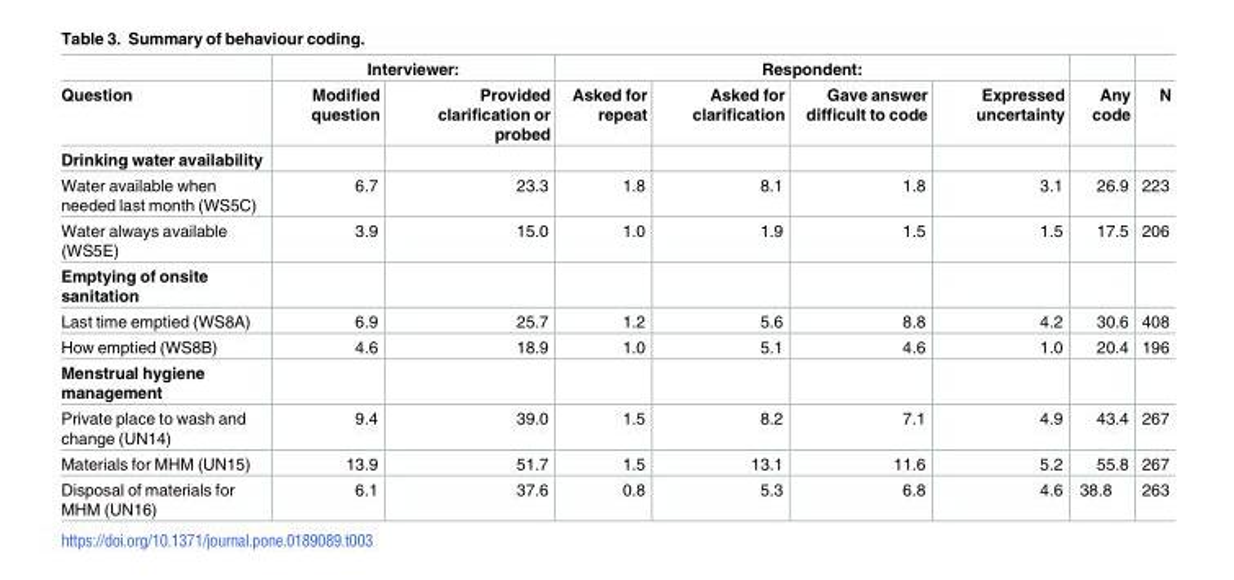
<table><thead><tr><td rowspan="2">Question</td><td colspan="2">Interviewer:</td><td colspan="4">Respondent:</td><td rowspan="2">Any code</td><td rowspan="2">N</td></tr><tr><td>Modified question</td><td>Provided clarification or probed</td><td>Asked for repeat</td><td>Asked for clarification</td><td>Gave answer difficult to code</td><td>Expressed uncertainty</td></tr></thead><tbody><tr><td colspan="9">Drinking water availability</td></tr><tr><td>Water available when needed last month (WS5C)</td><td>6.7</td><td>23.3</td><td>1.8</td><td>8.1</td><td>1.8</td><td>3.1</td><td>26.9</td><td>223</td></tr><tr><td>Water always available (WS5E)</td><td>3.9</td><td>15.0</td><td>1.0</td><td>1.9</td><td>1.5</td><td>1.5</td><td>17.5</td><td>206</td></tr><tr><td colspan="9">Emptying of onsite sanitation</td></tr><tr><td>Last time emptied (WS8A)</td><td>6.9</td><td>25.7</td><td>1.2</td><td>5.6</td><td>8.8</td><td>4.2</td><td>30.6</td><td>408</td></tr><tr><td>How emptied (WS8B)</td><td>4.6</td><td>18.9</td><td>1.0</td><td>5.1</td><td>4.6</td><td>1.0</td><td>20.4</td><td>196</td></tr><tr><td colspan="9">Menstrual hygiene management</td></tr><tr><td>Private place to wash and change (UN14)</td><td>9.4</td><td>39.0</td><td>1.5</td><td>8.2</td><td>7.1</td><td>4.9</td><td>43.4</td><td>267</td></tr><tr><td>Materials for MHM (UN15)</td><td>13.9</td><td>51.7</td><td>1.5</td><td>13.1</td><td>11.6</td><td>5.2</td><td>55.8</td><td>267</td></tr><tr><td>Disposal of materials for MHM (UN16)</td><td>6.1</td><td>37.6</td><td>0.8</td><td>5.3</td><td>6.8</td><td>4.6</td><td>38.8</td><td>263</td></tr></tbody></table>